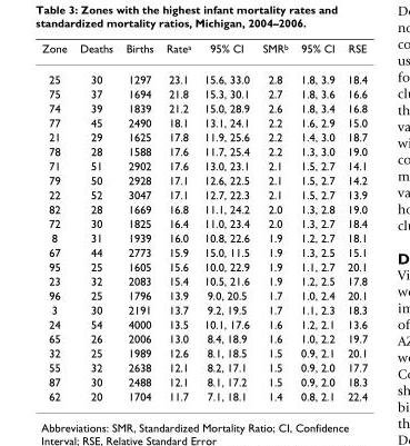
<table><thead><tr><td>Zone</td><td>Deaths</td><td>Births</td><td>Rate<sup>a</sup></td><td>95% CI</td><td>SMR<sup>b</sup></td><td>95% CI</td><td>RSE</td></tr></thead><tbody><tr><td>25</td><td>30</td><td>1297</td><td>23.1</td><td>15.6, 33.0</td><td>2.8</td><td>1.8, 3.9</td><td>18.4</td></tr><tr><td>75</td><td>37</td><td>1694</td><td>21.8</td><td>15.3, 30.1</td><td>2.7</td><td>1.8, 3.6</td><td>16.6</td></tr><tr><td>74</td><td>39</td><td>1839</td><td>21.2</td><td>15.0, 28.9</td><td>2.6</td><td>1.8, 3.4</td><td>16.8</td></tr><tr><td>77</td><td>45</td><td>2490</td><td>18.1</td><td>13.1, 24.1</td><td>2.2</td><td>1.6, 2.9</td><td>15.0</td></tr><tr><td>21</td><td>29</td><td>1625</td><td>17.8</td><td>11.9, 25.6</td><td>2.2</td><td>1.4, 3.0</td><td>18.7</td></tr><tr><td>78</td><td>28</td><td>1588</td><td>17.6</td><td>11.7, 25.4</td><td>2.2</td><td>1.3, 3.0</td><td>19.0</td></tr><tr><td>71</td><td>51</td><td>2902</td><td>17.6</td><td>13.0, 23.1</td><td>2.1</td><td>1.5, 2.7</td><td>14.1</td></tr><tr><td>79</td><td>50</td><td>2928</td><td>17.1</td><td>12.6, 22.5</td><td>2.1</td><td>1.5, 2.7</td><td>14.2</td></tr><tr><td>22</td><td>52</td><td>3047</td><td>17.1</td><td>12.7, 22.3</td><td>2.1</td><td>1.5, 2.7</td><td>13.9</td></tr><tr><td>82</td><td>28</td><td>1669</td><td>16.8</td><td>11.1, 24.2</td><td>2.0</td><td>1.3, 2.8</td><td>19.0</td></tr><tr><td>72</td><td>30</td><td>1825</td><td>16.4</td><td>11.0, 23.4</td><td>2.0</td><td>1.3, 2.7</td><td>18.4</td></tr><tr><td>8</td><td>31</td><td>1939</td><td>16.0</td><td>10.8, 22.6</td><td>1.9</td><td>1.2, 2.7</td><td>18.1</td></tr><tr><td>67</td><td>44</td><td>2773</td><td>15.9</td><td>15.0, 11.5</td><td>1.9</td><td>1.3, 2.5</td><td>15.1</td></tr><tr><td>95</td><td>25</td><td>1605</td><td>15.6</td><td>10.0, 22.9</td><td>1.9</td><td>1.1, 2.7</td><td>20.1</td></tr><tr><td>23</td><td>32</td><td>2083</td><td>15.4</td><td>10.5, 21.6</td><td>1.9</td><td>1.2, 2.5</td><td>17.8</td></tr><tr><td>96</td><td>25</td><td>1796</td><td>13.9</td><td>9.0, 20.5</td><td>1.7</td><td>1.0, 2.4</td><td>20.1</td></tr><tr><td>3</td><td>30</td><td>2191</td><td>13.7</td><td>9.2, 19.5</td><td>1.7</td><td>1.1, 2.3</td><td>18.3</td></tr><tr><td>24</td><td>54</td><td>4000</td><td>13.5</td><td>10.1, 17.6</td><td>1.6</td><td>1.2, 2.1</td><td>13.6</td></tr><tr><td>65</td><td>26</td><td>2006</td><td>13.0</td><td>8.4, 18.9</td><td>1.6</td><td>1.0, 2.2</td><td>19.7</td></tr><tr><td>32</td><td>25</td><td>1989</td><td>12.6</td><td>8.1, 18.5</td><td>1.5</td><td>0.9, 2.1</td><td>20.1</td></tr><tr><td>55</td><td>32</td><td>2638</td><td>12.1</td><td>8.2, 17.1</td><td>1.5</td><td>0.9, 2.0</td><td>17.7</td></tr><tr><td>87</td><td>30</td><td>2488</td><td>12.1</td><td>8.1, 17.2</td><td>1.5</td><td>0.9, 2.0</td><td>18.3</td></tr><tr><td>62</td><td>20</td><td>1704</td><td>11.7</td><td>7.1, 18.1</td><td>1.4</td><td>0.8, 2.1</td><td>22.4</td></tr></tbody></table>